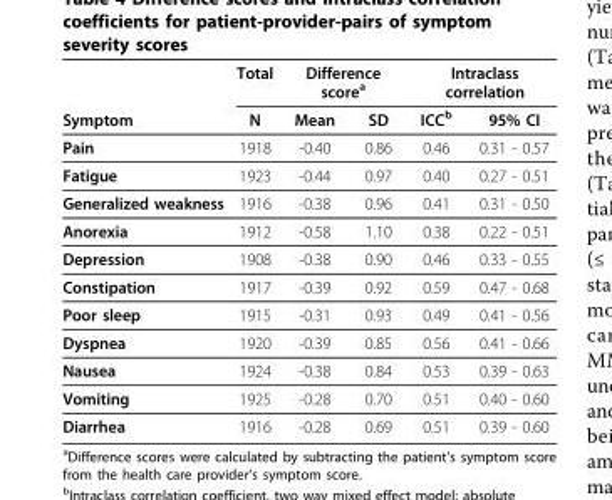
<table><thead><tr><td rowspan="2">Symptom</td><td rowspan="2">Total N</td><td colspan="2">Difference score<sup>a</sup></td><td colspan="2">Intraclass correlation</td></tr><tr><td>Mean</td><td>SD</td><td>ICC<sup>b</sup></td><td>95% CI</td></tr></thead><tbody><tr><td>Pain</td><td>1918</td><td>-0.40</td><td>0.86</td><td>0.46</td><td>0.31 - 0.57</td></tr><tr><td>Fatigue</td><td>1923</td><td>-0.44</td><td>0.97</td><td>0.40</td><td>0.27 - 0.51</td></tr><tr><td>Generalized weakness</td><td>1916</td><td>-0.38</td><td>0.96</td><td>0.41</td><td>0.31 - 0.50</td></tr><tr><td>Anorexia</td><td>1912</td><td>-0.58</td><td>1.10</td><td>0.38</td><td>0.22 - 0.51</td></tr><tr><td>Depression</td><td>1908</td><td>-0.38</td><td>0.90</td><td>0.46</td><td>0.33 - 0.55</td></tr><tr><td>Constipation</td><td>1917</td><td>-0.39</td><td>0.92</td><td>0.59</td><td>0.47 - 0.68</td></tr><tr><td>Poor sleep</td><td>1915</td><td>-0.31</td><td>0.93</td><td>0.49</td><td>0.41 - 0.56</td></tr><tr><td>Dyspnea</td><td>1920</td><td>-0.39</td><td>0.85</td><td>0.56</td><td>0.41 - 0.66</td></tr><tr><td>Nausea</td><td>1924</td><td>-0.38</td><td>0.84</td><td>0.53</td><td>0.39 - 0.63</td></tr><tr><td>Vomiting</td><td>1925</td><td>-0.28</td><td>0.70</td><td>0.51</td><td>0.40 - 0.60</td></tr><tr><td>Diarrhea</td><td>1916</td><td>-0.28</td><td>0.69</td><td>0.51</td><td>0.39 - 0.60</td></tr></tbody></table>